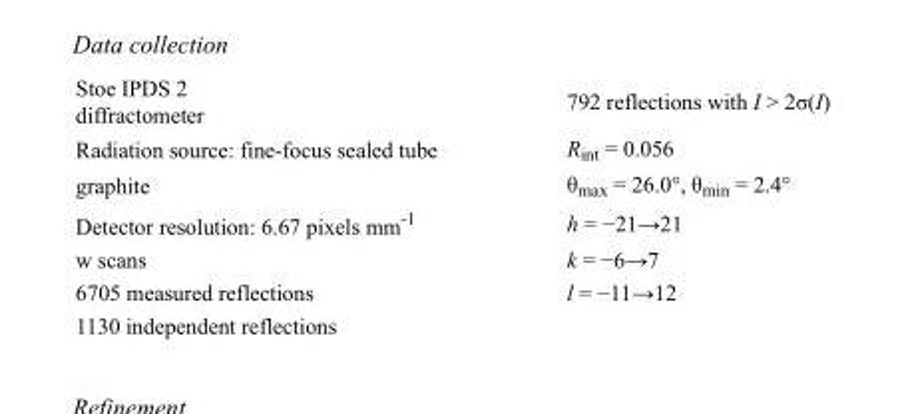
<table><tbody><tr><td>Stoe IPDS 2 diffractometer</td><td>792 reflections with I &gt; 2σ(I)</td></tr><tr><td>Radiation source: fine-focus sealed tube</td><td>R<sub>int</sub> = 0.056</td></tr><tr><td>graphite</td><td>θ<sub>max</sub> = 26.0°, θ<sub>min</sub> = 2.4°</td></tr><tr><td>Detector resolution: 6.67 pixels mm<sup>-1</sup></td><td>h = −21→21</td></tr><tr><td>w scans</td><td>k = −6→7</td></tr><tr><td>6705 measured reflections</td><td>l = −11→12</td></tr><tr><td>1130 independent reflections</td><td></td></tr></tbody></table>